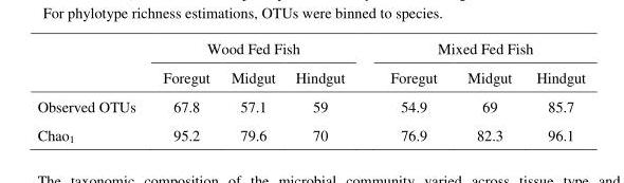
<table><thead><tr><td rowspan="2"></td><td colspan="3">Wood Fed Fish</td><td colspan="3">Mixed Fed Fish</td></tr><tr><td>Foregut</td><td>Midgut</td><td>Hindgut</td><td>Foregut</td><td>Midgut</td><td>Hindgut</td></tr></thead><tbody><tr><td>Observed OTUs</td><td>67.8</td><td>57.1</td><td>59</td><td>54.9</td><td>69</td><td>85.7</td></tr><tr><td>Chao<sub>1</sub></td><td>95.2</td><td>79.6</td><td>70</td><td>76.9</td><td>82.3</td><td>96.1</td></tr></tbody></table>